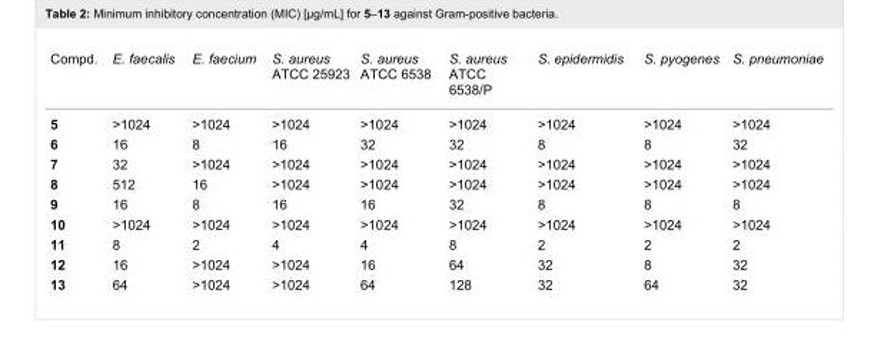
<table><tbody><tr><td>Compd.</td><td>E. faecalis</td><td>E. faecium</td><td>S. aureus ATCC 25923</td><td>S. aureus ATCC 6538</td><td>S. aureus ATCC 6538/P</td><td>S. epidermidis</td><td>S. pyogenes</td><td>S. pneumoniae</td></tr><tr><td>5</td><td>&gt;1024</td><td>&gt;1024</td><td>&gt;1024</td><td>&gt;1024</td><td>&gt;1024</td><td>&gt;1024</td><td>&gt;1024</td><td>&gt;1024</td></tr><tr><td>6</td><td>16</td><td>8</td><td>16</td><td>32</td><td>32</td><td>8</td><td>8</td><td>32</td></tr><tr><td>7</td><td>32</td><td>&gt;1024</td><td>&gt;1024</td><td>&gt;1024</td><td>&gt;1024</td><td>&gt;1024</td><td>&gt;1024</td><td>&gt;1024</td></tr><tr><td>8</td><td>512</td><td>16</td><td>&gt;1024</td><td>&gt;1024</td><td>&gt;1024</td><td>&gt;1024</td><td>&gt;1024</td><td>&gt;1024</td></tr><tr><td>9</td><td>16</td><td>8</td><td>16</td><td>16</td><td>32</td><td>8</td><td>8</td><td>8</td></tr><tr><td>10</td><td>&gt;1024</td><td>&gt;1024</td><td>&gt;1024</td><td>&gt;1024</td><td>&gt;1024</td><td>&gt;1024</td><td>&gt;1024</td><td>&gt;1024</td></tr><tr><td>11</td><td>8</td><td>2</td><td>4</td><td>4</td><td>8</td><td>2</td><td>2</td><td>2</td></tr><tr><td>12</td><td>16</td><td>&gt;1024</td><td>&gt;1024</td><td>16</td><td>64</td><td>32</td><td>8</td><td>32</td></tr><tr><td>13</td><td>64</td><td>&gt;1024</td><td>&gt;1024</td><td>64</td><td>128</td><td>32</td><td>64</td><td>32</td></tr></tbody></table>